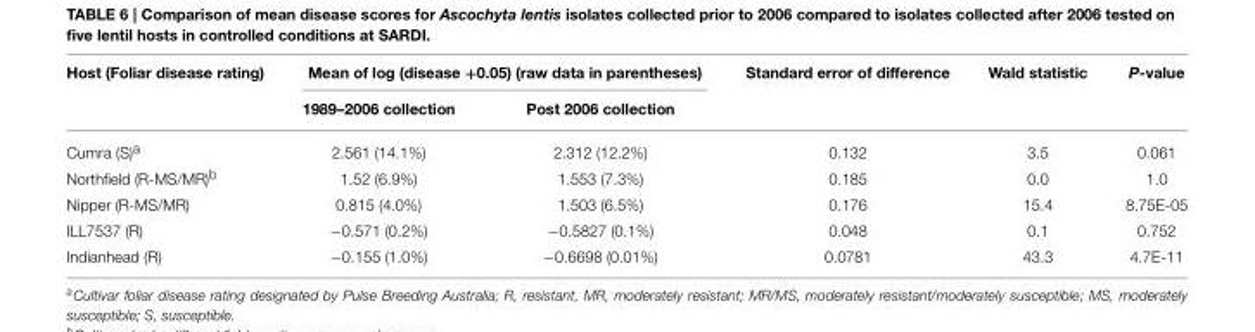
<table><thead><tr><td rowspan="2">Host (Foliar disease rating)</td><td colspan="2">Mean of log (disease +0.05) (raw data in parentheses)</td><td rowspan="2">Standard error of difference</td><td rowspan="2">Wald statistic</td><td rowspan="2">P-value</td></tr><tr><td>1989–2006 collection</td><td>Post 2006 collection</td></tr></thead><tbody><tr><td>Cumra (S)<sup>a</sup></td><td>2.561 (14.1%)</td><td>2.312 (12.2%)</td><td>0.132</td><td>3.5</td><td>0.061</td></tr><tr><td>Northfield (R-MS/MR)<sup>b</sup></td><td>1.52 (6.9%)</td><td>1.553 (7.3%)</td><td>0.185</td><td>0.0</td><td>1.0</td></tr><tr><td>Nipper (R-MS/MR)</td><td>0.815 (4.0%)</td><td>1.503 (6.5%)</td><td>0.176</td><td>15.4</td><td>8.75E-05</td></tr><tr><td>ILL7537 (R)</td><td>−0.571 (0.2%)</td><td>−0.5827 (0.1%)</td><td>0.048</td><td>0.1</td><td>0.752</td></tr><tr><td>Indianhead (R)</td><td>−0.155 (1.0%)</td><td>−0.6698 (0.01%)</td><td>0.0781</td><td>43.3</td><td>4.7E-11</td></tr></tbody></table>